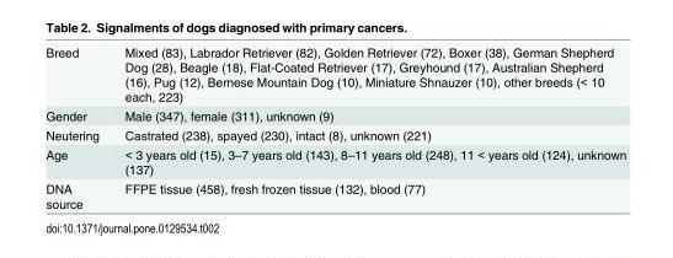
<table><tbody><tr><td>Breed</td><td>Mixed (83), Labrador Retriever (82), Golden Retriever (72), Boxer (38), German Shepherd Dog (28), Beagle (18), Flat-Coated Retriever (17), Greyhound (17), Australian Shepherd (16), Pug (12), Bernese Mountain Dog (10), Miniature Shnauzer (10), other breeds (&lt; 10 each, 223)</td></tr><tr><td>Gender</td><td>Male (347), female (311), unknown (9)</td></tr><tr><td>Neutering</td><td>Castrated (238), spayed (230), intact (8), unknown (221)</td></tr><tr><td>Age</td><td>&lt; 3 years old (15), 3–7 years old (143), 8–11 years old (248), 11 &lt; years old (124), unknown (137)</td></tr><tr><td>DNA source</td><td>FFPE tissue (458), fresh frozen tissue (132), blood (77)</td></tr></tbody></table>